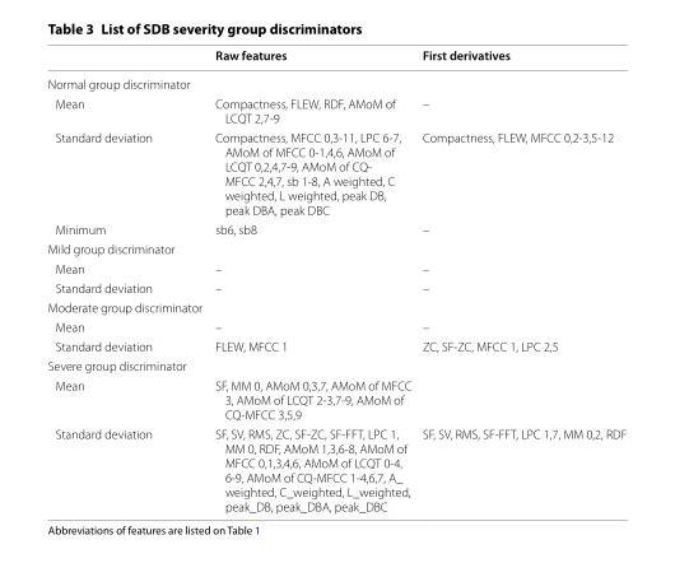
<table><thead><tr><td></td><td>Raw features</td><td>First derivatives</td></tr></thead><tbody><tr><td colspan="3">Normal group discriminator</td></tr><tr><td>Mean</td><td>Compactness, FLEW, RDF, AMoM of LCQT 2,7‑9</td><td>–</td></tr><tr><td>Standard deviation</td><td>Compactness, MFCC 0,3‑11, LPC 6‑7, AMoM of MFCC 0‑1,4,6, AMoM of LCQT 0,2,4,7‑9, AMoM of CQ‑ MFCC 2,4,7, sb 1‑8, A weighted, C weighted, L weighted, peak DB, peak DBA, peak DBC</td><td>Compactness, FLEW, MFCC 0,2‑3,5‑12</td></tr><tr><td>Minimum</td><td>sb6, sb8</td><td>–</td></tr><tr><td colspan="3">Mild group discriminator</td></tr><tr><td>Mean</td><td>–</td><td>–</td></tr><tr><td>Standard deviation</td><td>–</td><td>–</td></tr><tr><td colspan="3">Moderate group discriminator</td></tr><tr><td>Mean</td><td>–</td><td>–</td></tr><tr><td>Standard deviation</td><td>FLEW, MFCC 1</td><td>ZC, SF‑ZC, MFCC 1, LPC 2,5</td></tr><tr><td colspan="3">Severe group discriminator</td></tr><tr><td>Mean</td><td>SF, MM 0, AMoM 0,3,7, AMoM of MFCC 3, AMoM of LCQT 2‑3,7‑9, AMoM of CQ‑MFCC 3,5,9</td><td></td></tr><tr><td>Standard deviation</td><td>SF, SV, RMS, ZC, SF‑ZC, SF‑FFT, LPC 1, MM 0, RDF, AMoM 1,3,6‑8, AMoM of MFCC 0,1,3,4,6, AMoM of LCQT 0‑4, 6‑9, AMoM of CQ‑MFCC 1‑4,6,7, A_ weighted, C_weighted, L_weighted, peak_DB, peak_DBA, peak_DBC</td><td>SF, SV, RMS, SF‑FFT, LPC 1,7, MM 0,2, RDF</td></tr></tbody></table>